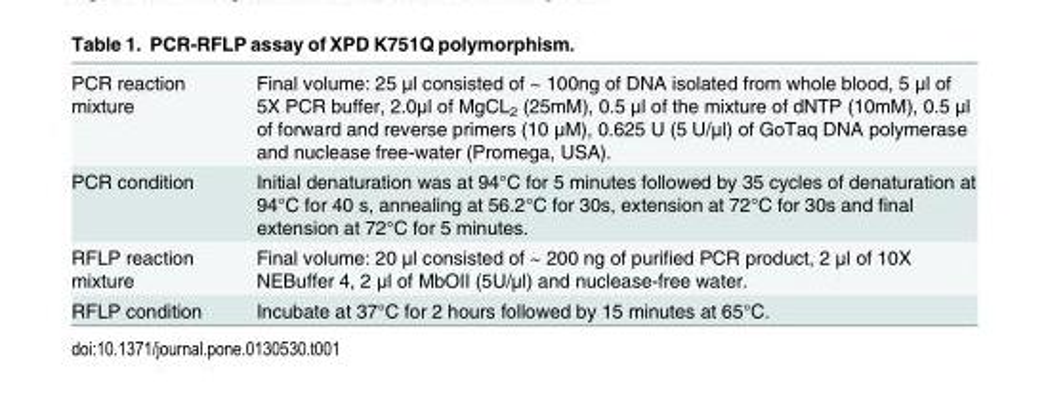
<table><tbody><tr><td>PCR reaction mixture</td><td>Final volume: 25 μl consisted of ~ 100ng of DNA isolated from whole blood, 5 μl of 5X PCR buffer, 2.0μl of MgCL<sub>2</sub> (25mM), 0.5 μl of the mixture of dNTP (10mM), 0.5 μl of forward and reverse primers (10 μM), 0.625 U (5 U/μl) of GoTaq DNA polymerase and nuclease free-water (Promega, USA).</td></tr><tr><td>PCR condition</td><td>Initial denaturation was at 94°C for 5 minutes followed by 35 cycles of denaturation at 94°C for 40 s, annealing at 56.2°C for 30s, extension at 72°C for 30s and final extension at 72°C for 5 minutes.</td></tr><tr><td>RFLP reaction mixture</td><td>Final volume: 20 μl consisted of ~ 200 ng of purified PCR product, 2 μl of 10X NEBuffer 4, 2 μl of MbOII (5U/μl) and nuclease-free water.</td></tr><tr><td>RFLP condition</td><td>Incubate at 37°C for 2 hours followed by 15 minutes at 65°C.</td></tr></tbody></table>